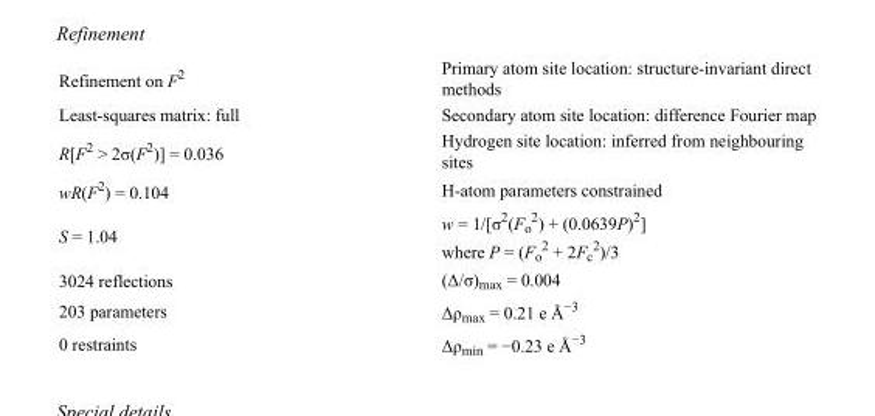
<table><tbody><tr><td>Refinement on F<sup>2</sup></td><td>Primary atom site location: structure-invariant direct methods</td></tr><tr><td>Least-squares matrix: full</td><td>Secondary atom site location: difference Fourier map</td></tr><tr><td>R[F<sup>2</sup> &gt; 2σ(F<sup>2</sup>)] = 0.036</td><td>Hydrogen site location: inferred from neighbouring sites</td></tr><tr><td>wR(F<sup>2</sup>) = 0.104</td><td>H-atom parameters constrained</td></tr><tr><td>S = 1.04</td><td>w = 1/[σ<sup>2</sup>(F<sub>o</sub> <sup>2</sup>) + (0.0639P)<sup>2</sup>] where P = (F<sub>o</sub> <sup>2</sup> + 2F<sub>c</sub> <sup>2</sup>)/3</td></tr><tr><td>3024 reflections</td><td>(Δ/σ)<sub>max</sub> = 0.004</td></tr><tr><td>203 parameters</td><td>Δρ<sub>max</sub> = 0.21 e Å<sup>−3</sup></td></tr><tr><td>0 restraints</td><td>Δρ<sub>min</sub> = −0.23 e Å<sup>−3</sup></td></tr></tbody></table>